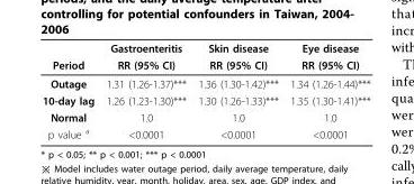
<table><thead><tr><td rowspan="2">Period</td><td rowspan="2">Gastroenteritis RR (95% CI)</td><td rowspan="2">Skin disease RR (95% CI)</td><td rowspan="2">Eye disease RR (95% CI)</td></tr><tr></tr></thead><tbody><tr><td>Outage</td><td>1.31 (1.26-1.37)***</td><td>1.36 (1.30-1.42)***</td><td>1.34 (1.26-1.44)***</td></tr><tr><td>10-day lag</td><td>1.26 (1.23-1.30)***</td><td>1.30 (1.26-1.33)***</td><td>1.35 (1.30-1.41)***</td></tr><tr><td>Normal</td><td>1.0</td><td>1.0</td><td>1.0</td></tr><tr><td>p value <sup>a</sup></td><td>&lt;0.0001</td><td>&lt;0.0001</td><td>&lt;0.0001</td></tr></tbody></table>